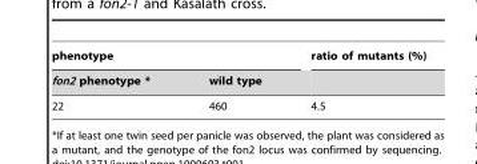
<table><thead><tr><td colspan="2">phenotype</td><td rowspan="2">ratio of mutants (%)</td></tr><tr><td>fon2 phenotype *</td><td>wild type</td></tr></thead><tbody><tr><td>22</td><td>460</td><td>4.5</td></tr></tbody></table>